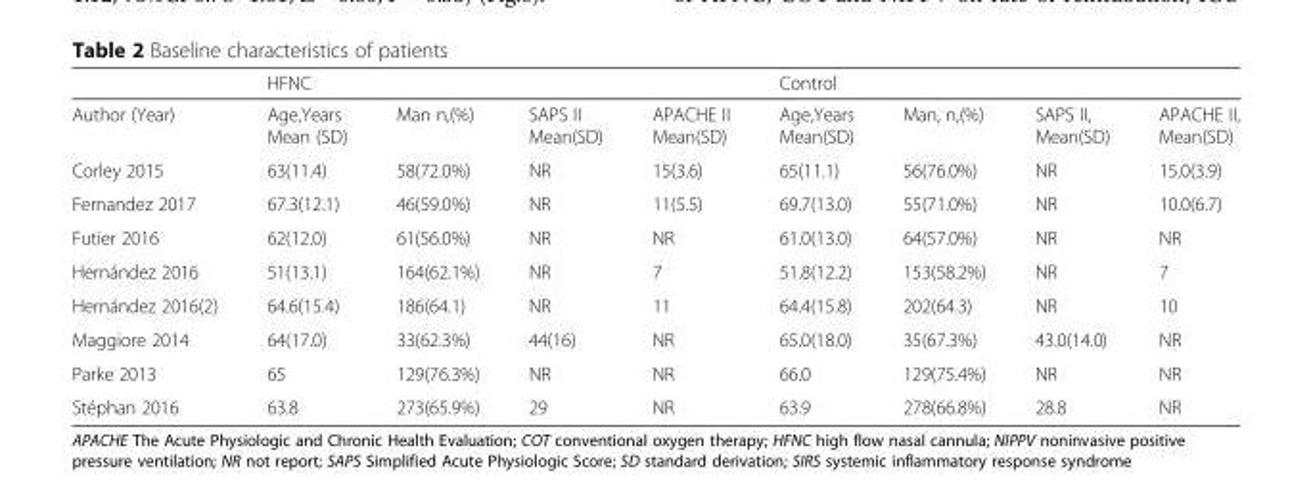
<table><thead><tr><td rowspan="2">Author (Year)</td><td colspan="4">HFNC</td><td colspan="4">Control</td></tr><tr><td>Age,Years Mean (SD)</td><td>Man n,(%)</td><td>SAPS II Mean(SD)</td><td>APACHE II Mean(SD)</td><td>Age,Years Mean(SD)</td><td>Man, n,(%)</td><td>SAPS II, Mean(SD)</td><td>APACHE II, Mean(SD)</td></tr></thead><tbody><tr><td>Corley 2015</td><td>63(11.4)</td><td>58(72.0%)</td><td>NR</td><td>15(3.6)</td><td>65(11.1)</td><td>56(76.0%)</td><td>NR</td><td>15.0(3.9)</td></tr><tr><td>Fernandez 2017</td><td>67.3(12.1)</td><td>46(59.0%)</td><td>NR</td><td>11(5.5)</td><td>69.7(13.0)</td><td>55(71.0%)</td><td>NR</td><td>10.0(6.7)</td></tr><tr><td>Futier 2016</td><td>62(12.0)</td><td>61(56.0%)</td><td>NR</td><td>NR</td><td>61.0(13.0)</td><td>64(57.0%)</td><td>NR</td><td>NR</td></tr><tr><td>Hernández 2016</td><td>51(13.1)</td><td>164(62.1%)</td><td>NR</td><td>7</td><td>51.8(12.2)</td><td>153(58.2%)</td><td>NR</td><td>7</td></tr><tr><td>Hernández 2016(2)</td><td>64.6(15.4)</td><td>186(64.1)</td><td>NR</td><td>11</td><td>64.4(15.8)</td><td>202(64.3)</td><td>NR</td><td>10</td></tr><tr><td>Maggiore 2014</td><td>64(17.0)</td><td>33(62.3%)</td><td>44(16)</td><td>NR</td><td>65.0(18.0)</td><td>35(67.3%)</td><td>43.0(14.0)</td><td>NR</td></tr><tr><td>Parke 2013</td><td>65</td><td>129(76.3%)</td><td>NR</td><td>NR</td><td>66.0</td><td>129(75.4%)</td><td>NR</td><td>NR</td></tr><tr><td>Stéphan 2016</td><td>63.8</td><td>273(65.9%)</td><td>29</td><td>NR</td><td>63.9</td><td>278(66.8%)</td><td>28.8</td><td>NR</td></tr></tbody></table>